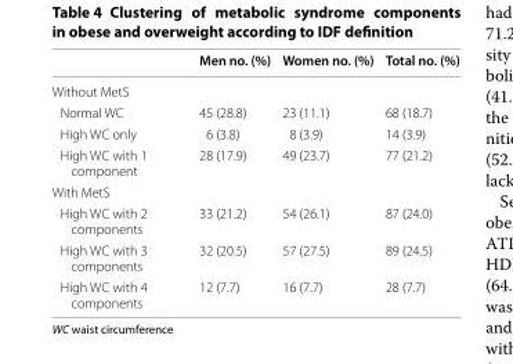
<table><thead><tr><td></td><td>Men no. (%)</td><td>Women no. (%)</td><td>Total no. (%)</td></tr></thead><tbody><tr><td colspan="4">Without MetS</td></tr><tr><td>Normal WC</td><td>45 (28.8)</td><td>23 (11.1)</td><td>68 (18.7)</td></tr><tr><td>High WC only</td><td>6 (3.8)</td><td>8 (3.9)</td><td>14 (3.9)</td></tr><tr><td>High WC with 1 component</td><td>28 (17.9)</td><td>49 (23.7)</td><td>77 (21.2)</td></tr><tr><td colspan="4">With MetS</td></tr><tr><td>High WC with 2 components</td><td>33 (21.2)</td><td>54 (26.1)</td><td>87 (24.0)</td></tr><tr><td>High WC with 3 components</td><td>32 (20.5)</td><td>57 (27.5)</td><td>89 (24.5)</td></tr><tr><td>High WC with 4 components</td><td>12 (7.7)</td><td>16 (7.7)</td><td>28 (7.7)</td></tr></tbody></table>